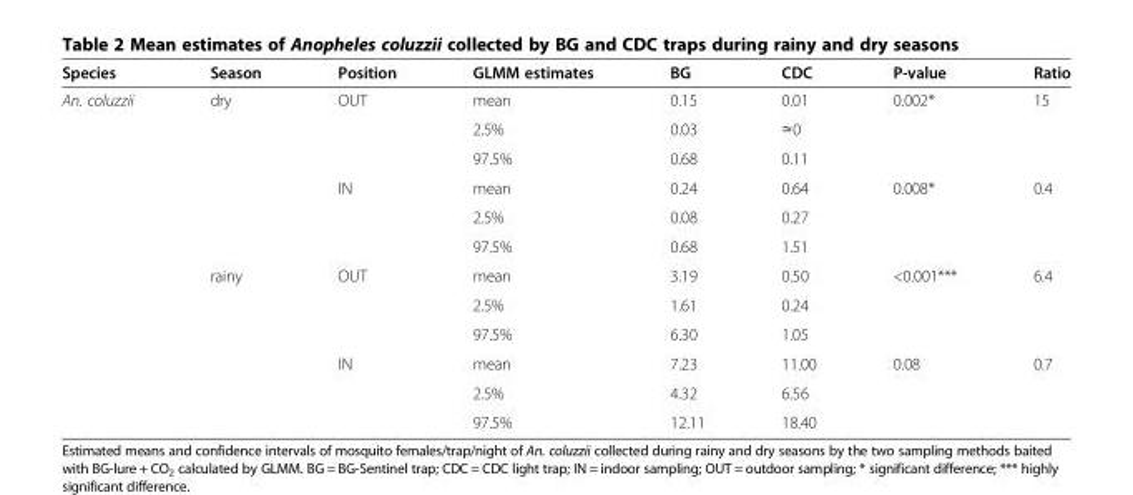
<table><thead><tr><td>Species</td><td>Season</td><td>Position</td><td>GLMM estimates</td><td>BG</td><td>CDC</td><td>P-value</td><td>Ratio</td></tr></thead><tbody><tr><td rowspan="12">An. coluzzii</td><td>dry</td><td>OUT</td><td>mean</td><td>0.15</td><td>0.01</td><td>0.002*</td><td>15</td></tr><tr><td></td><td></td><td>2.5%</td><td>0.03</td><td>≃0</td><td></td><td></td></tr><tr><td></td><td></td><td>97.5%</td><td>0.68</td><td>0.11</td><td></td><td></td></tr><tr><td></td><td>IN</td><td>mean</td><td>0.24</td><td>0.64</td><td>0.008*</td><td>0.4</td></tr><tr><td></td><td></td><td>2.5%</td><td>0.08</td><td>0.27</td><td></td><td></td></tr><tr><td></td><td></td><td>97.5%</td><td>0.68</td><td>1.51</td><td></td><td></td></tr><tr><td>rainy</td><td>OUT</td><td>mean</td><td>3.19</td><td>0.50</td><td>&lt;0.001***</td><td>6.4</td></tr><tr><td></td><td></td><td>2.5%</td><td>1.61</td><td>0.24</td><td></td><td></td></tr><tr><td></td><td></td><td>97.5%</td><td>6.30</td><td>1.05</td><td></td><td></td></tr><tr><td></td><td>IN</td><td>mean</td><td>7.23</td><td>11.00</td><td>0.08</td><td>0.7</td></tr><tr><td></td><td></td><td>2.5%</td><td>4.32</td><td>6.56</td><td></td><td></td></tr><tr><td></td><td></td><td>97.5%</td><td>12.11</td><td>18.40</td><td></td><td></td></tr></tbody></table>